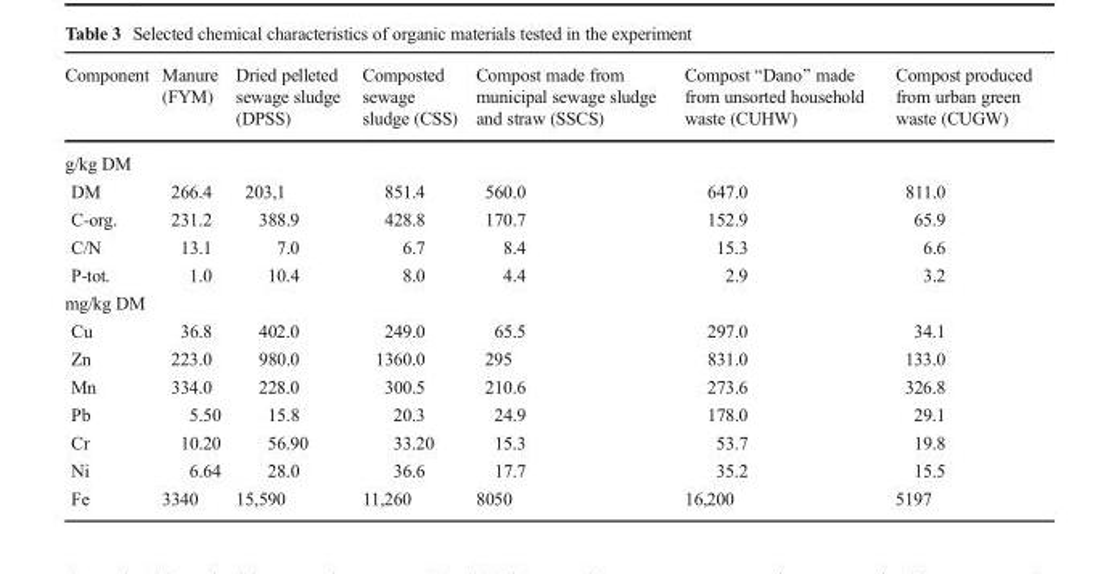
<table><thead><tr><td>Component</td><td>Manure (FYM)</td><td>Dried pelleted sewage sludge (DPSS)</td><td>Composted sewage sludge (CSS)</td><td>Compost made from municipal sewage sludge and straw (SSCS)</td><td>Compost “Dano” made from unsorted household waste (CUHW)</td><td>Compost produced from urban green waste (CUGW)</td></tr></thead><tbody><tr><td colspan="7">g/kg DM</td></tr><tr><td>DM</td><td>266.4</td><td>203,1</td><td>851.4</td><td>560.0</td><td>647.0</td><td>811.0</td></tr><tr><td>C-org.</td><td>231.2</td><td>388.9</td><td>428.8</td><td>170.7</td><td>152.9</td><td>65.9</td></tr><tr><td>C/N</td><td>13.1</td><td>7.0</td><td>6.7</td><td>8.4</td><td>15.3</td><td>6.6</td></tr><tr><td>P-tot.</td><td>1.0</td><td>10.4</td><td>8.0</td><td>4.4</td><td>2.9</td><td>3.2</td></tr><tr><td colspan="7">mg/kg DM</td></tr><tr><td>Cu</td><td>36.8</td><td>402.0</td><td>249.0</td><td>65.5</td><td>297.0</td><td>34.1</td></tr><tr><td>Zn</td><td>223.0</td><td>980.0</td><td>1360.0</td><td>295</td><td>831.0</td><td>133.0</td></tr><tr><td>Mn</td><td>334.0</td><td>228.0</td><td>300.5</td><td>210.6</td><td>273.6</td><td>326.8</td></tr><tr><td>Pb</td><td>5.50</td><td>15.8</td><td>20.3</td><td>24.9</td><td>178.0</td><td>29.1</td></tr><tr><td>Cr</td><td>10.20</td><td>56.90</td><td>33.20</td><td>15.3</td><td>53.7</td><td>19.8</td></tr><tr><td>Ni</td><td>6.64</td><td>28.0</td><td>36.6</td><td>17.7</td><td>35.2</td><td>15.5</td></tr><tr><td>Fe</td><td>3340</td><td>15,590</td><td>11,260</td><td>8050</td><td>16,200</td><td>5197</td></tr></tbody></table>